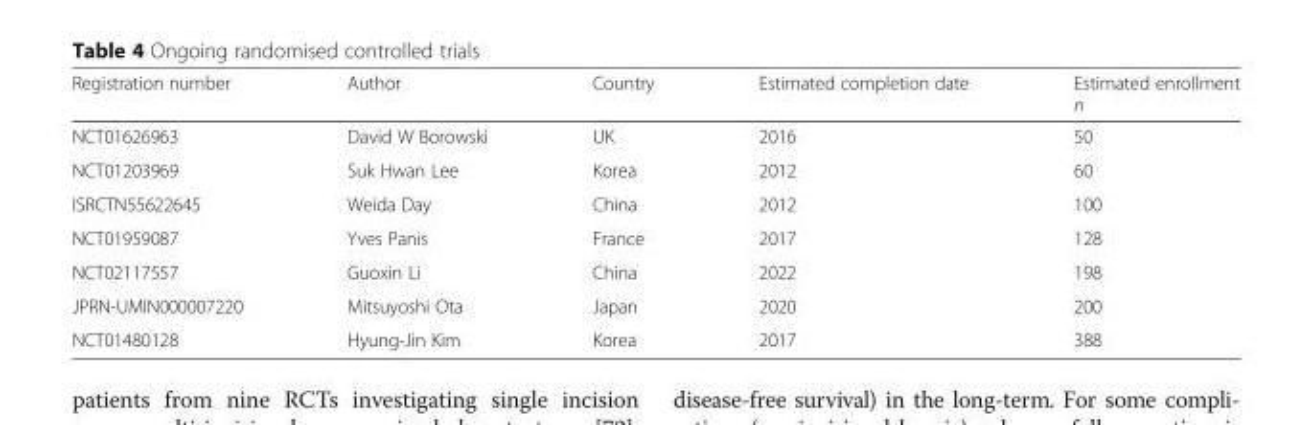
<table><thead><tr><td>Registration number</td><td>Author</td><td>Country</td><td>Estimated completion date</td><td>Estimated enrollment n</td></tr></thead><tbody><tr><td>NCT01626963</td><td>David W Borowski</td><td>UK</td><td>2016</td><td>50</td></tr><tr><td>NCT01203969</td><td>Suk Hwan Lee</td><td>Korea</td><td>2012</td><td>60</td></tr><tr><td>ISRCTN55622645</td><td>Weida Day</td><td>China</td><td>2012</td><td>100</td></tr><tr><td>NCT01959087</td><td>Yves Panis</td><td>France</td><td>2017</td><td>128</td></tr><tr><td>NCT02117557</td><td>Guoxin Li</td><td>China</td><td>2022</td><td>198</td></tr><tr><td>JPRN-UMIN000007220</td><td>Mitsuyoshi Ota</td><td>Japan</td><td>2020</td><td>200</td></tr><tr><td>NCT01480128</td><td>Hyung-Jin Kim</td><td>Korea</td><td>2017</td><td>388</td></tr></tbody></table>